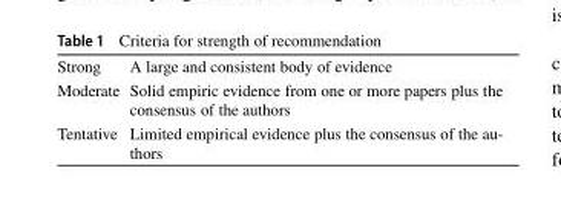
<table><tbody><tr><td>Strong</td><td>A large and consistent body of evidence</td></tr><tr><td>Moderate</td><td>Solid empiric evidence from one or more papers plus the consensus of the authors</td></tr><tr><td>Tentative</td><td>Limited empirical evidence plus the consensus of the au- thors</td></tr></tbody></table>